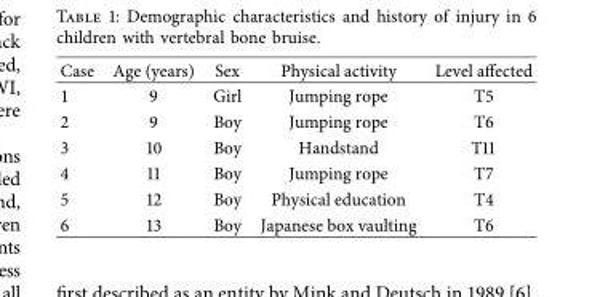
<table><thead><tr><td>Case</td><td>Age (years)</td><td>Sex</td><td>Physical activity</td><td>Level afected</td></tr></thead><tbody><tr><td>1</td><td>9</td><td>Girl</td><td>Jumping rope</td><td>T5</td></tr><tr><td>2</td><td>9</td><td>Boy</td><td>Jumping rope</td><td>T6</td></tr><tr><td>3</td><td>10</td><td>Boy</td><td>Handstand</td><td>T11</td></tr><tr><td>4</td><td>11</td><td>Boy</td><td>Jumping rope</td><td>T7</td></tr><tr><td>5</td><td>12</td><td>Boy</td><td>Physical education</td><td>T4</td></tr><tr><td>6</td><td>13</td><td>Boy</td><td>Japanese box vaulting</td><td>T6</td></tr></tbody></table>